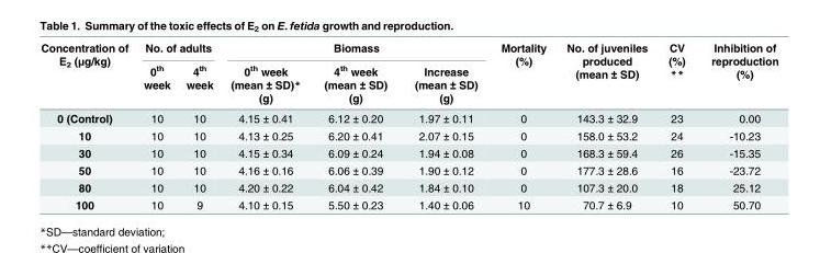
<table><thead><tr><td rowspan="2">Concentration of E<sub>2</sub> (μg/kg)</td><td colspan="2">No. of adults</td><td colspan="3">Biomass</td><td rowspan="2">Mortality (%)</td><td rowspan="2">No. of juveniles produced (mean ± SD)</td><td rowspan="2">CV (%) **</td><td rowspan="2">Inhibition of reproduction (%)</td></tr><tr><td>0<sup>th</sup> week</td><td>4<sup>th</sup> week</td><td>0<sup>th</sup> week (mean ± SD)* (g)</td><td>4<sup>th</sup> week (mean ± SD) (g)</td><td>Increase (mean ± SD) (g)</td></tr></thead><tbody><tr><td>0 (Control)</td><td>10</td><td>10</td><td>4.15 ± 0.41</td><td>6.12 ± 0.20</td><td>1.97 ± 0.11</td><td>0</td><td>143.3 ± 32.9</td><td>23</td><td>0.00</td></tr><tr><td>10</td><td>10</td><td>10</td><td>4.13 ± 0.25</td><td>6.20 ± 0.41</td><td>2.07 ± 0.15</td><td>0</td><td>158.0 ± 53.2</td><td>24</td><td>-10.23</td></tr><tr><td>30</td><td>10</td><td>10</td><td>4.15 ± 0.34</td><td>6.09 ± 0.24</td><td>1.94 ± 0.08</td><td>0</td><td>168.3 ± 59.4</td><td>26</td><td>-15.35</td></tr><tr><td>50</td><td>10</td><td>10</td><td>4.16 ± 0.16</td><td>6.06 ± 0.39</td><td>1.90 ± 0.12</td><td>0</td><td>177.3 ± 28.6</td><td>16</td><td>-23.72</td></tr><tr><td>80</td><td>10</td><td>10</td><td>4.20 ± 0.22</td><td>6.04 ± 0.42</td><td>1.84 ± 0.10</td><td>0</td><td>107.3 ± 20.0</td><td>18</td><td>25.12</td></tr><tr><td>100</td><td>10</td><td>9</td><td>4.10 ± 0.15</td><td>5.50 ± 0.23</td><td>1.40 ± 0.06</td><td>10</td><td>70.7 ± 6.9</td><td>10</td><td>50.70</td></tr></tbody></table>